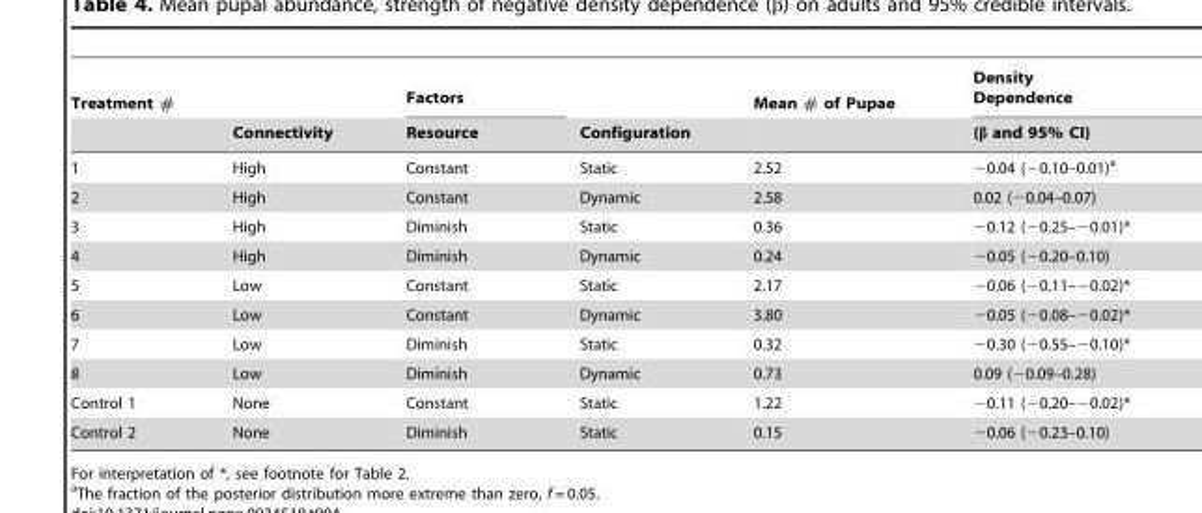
<table><thead><tr><td rowspan="2">Treatment #</td><td rowspan="2">Connectivity</td><td rowspan="2">Factors Resource</td><td rowspan="2">Configuration</td><td rowspan="2">Mean # of Pupae</td><td rowspan="2">Density Dependence (β and 95% CI)</td></tr><tr></tr></thead><tbody><tr><td>1</td><td>High</td><td>Constant</td><td>Static</td><td>2.52</td><td>−0.04 (−0.10–0.01)<sup>a</sup></td></tr><tr><td>2</td><td>High</td><td>Constant</td><td>Dynamic</td><td>2.58</td><td>0.02 (−0.04–0.07)</td></tr><tr><td>3</td><td>High</td><td>Diminish</td><td>Static</td><td>0.36</td><td>−0.12 (−0.25–−0.01)*</td></tr><tr><td>4</td><td>High</td><td>Diminish</td><td>Dynamic</td><td>0.24</td><td>−0.05 (−0.20–0.10)</td></tr><tr><td>5</td><td>Low</td><td>Constant</td><td>Static</td><td>2.17</td><td>−0.06 (−0.11–−0.02)*</td></tr><tr><td>6</td><td>Low</td><td>Constant</td><td>Dynamic</td><td>3.80</td><td>−0.05 (−0.08–−0.02)*</td></tr><tr><td>7</td><td>Low</td><td>Diminish</td><td>Static</td><td>0.32</td><td>−0.30 (−0.55–−0.10)*</td></tr><tr><td>8</td><td>Low</td><td>Diminish</td><td>Dynamic</td><td>0.73</td><td>0.09 (−0.09–0.28)</td></tr><tr><td>Control 1</td><td>None</td><td>Constant</td><td>Static</td><td>1.22</td><td>−0.11 (−0.20–−0.02)*</td></tr><tr><td>Control 2</td><td>None</td><td>Diminish</td><td>Static</td><td>0.15</td><td>−0.06 (−0.23–0.10)</td></tr></tbody></table>